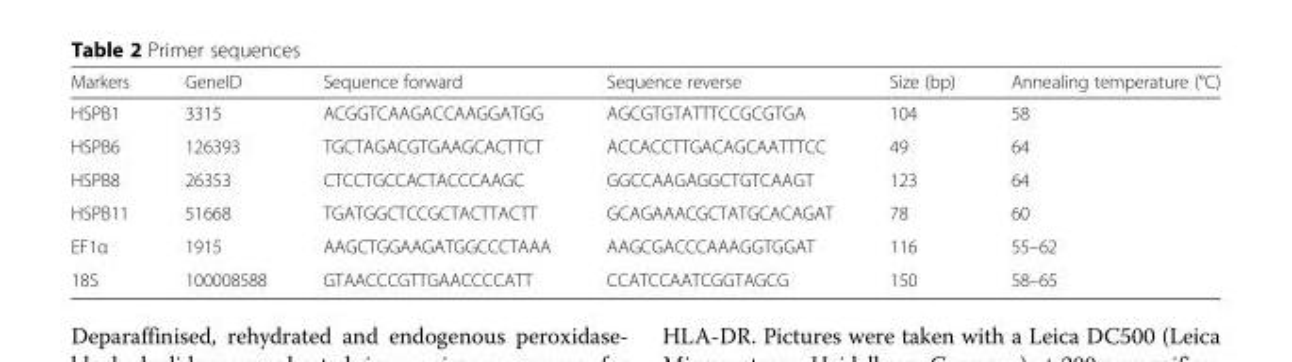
<table><thead><tr><td>Markers</td><td>GeneID</td><td>Sequence forward</td><td>Sequence reverse</td><td>Size (bp)</td><td>Annealing temperature (°C)</td></tr></thead><tbody><tr><td>HSPB1</td><td>3315</td><td>ACGGTCAAGACCAAGGATGG</td><td>AGCGTGTATTTCCGCGTGA</td><td>104</td><td>58</td></tr><tr><td>HSPB6</td><td>126393</td><td>TGCTAGACGTGAAGCACTTCT</td><td>ACCACCTTGACAGCAATTTCC</td><td>49</td><td>64</td></tr><tr><td>HSPB8</td><td>26353</td><td>CTCCTGCCACTACCCAAGC</td><td>GGCCAAGAGGCTGTCAAGT</td><td>123</td><td>64</td></tr><tr><td>HSPB11</td><td>51668</td><td>TGATGGCTCCGCTACTTACTT</td><td>GCAGAAACGCTATGCACAGAT</td><td>78</td><td>60</td></tr><tr><td>EF1α</td><td>1915</td><td>AAGCTGGAAGATGGCCCTAAA</td><td>AAGCGACCCAAAGGTGGAT</td><td>116</td><td>55–62</td></tr><tr><td>18S</td><td>100008588</td><td>GTAACCCGTTGAACCCCATT</td><td>CCATCCAATCGGTAGCG</td><td>150</td><td>58–65</td></tr></tbody></table>